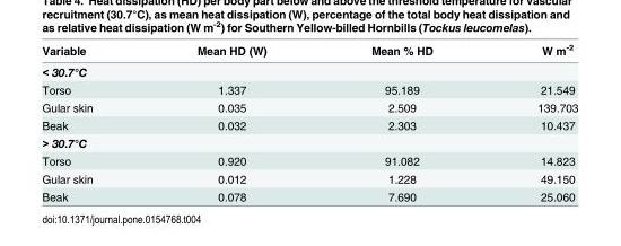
<table><thead><tr><td rowspan="2">Variable &lt; 30.7°C</td><td rowspan="2">Mean HD (W)</td><td rowspan="2">Mean % HD</td><td rowspan="2">W m<sup>-2</sup></td></tr><tr></tr></thead><tbody><tr><td>Torso</td><td>1.337</td><td>95.189</td><td>21.549</td></tr><tr><td>Gular skin</td><td>0.035</td><td>2.509</td><td>139.703</td></tr><tr><td>Beak</td><td>0.032</td><td>2.303</td><td>10.437</td></tr><tr><td colspan="4">&gt; 30.7°C</td></tr><tr><td>Torso</td><td>0.920</td><td>91.082</td><td>14.823</td></tr><tr><td>Gular skin</td><td>0.012</td><td>1.228</td><td>49.150</td></tr><tr><td>Beak</td><td>0.078</td><td>7.690</td><td>25.060</td></tr></tbody></table>